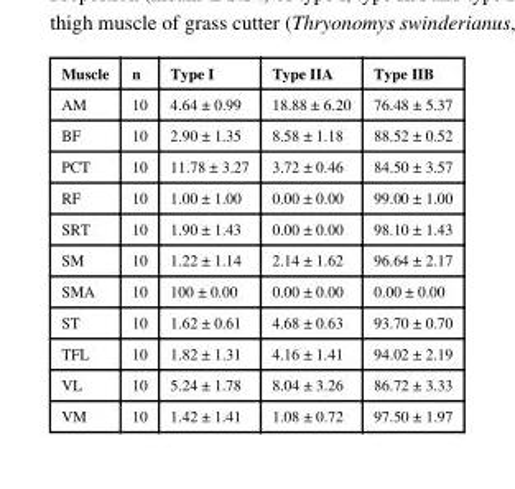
<table><thead><tr><td>Muscle</td><td>n</td><td>Type I</td><td>Type IIA</td><td>Type IIB</td></tr></thead><tbody><tr><td>AM</td><td>10</td><td>4.64 ± 0.99</td><td>18.88 ± 6.20</td><td>76.48 ± 5.37</td></tr><tr><td>BF</td><td>10</td><td>2.90 ± 1.35</td><td>8.58 ± 1.18</td><td>88.52 ± 0.52</td></tr><tr><td>PCT</td><td>10</td><td>11.78 ± 3.27</td><td>3.72 ± 0.46</td><td>84.50 ± 3.57</td></tr><tr><td>RF</td><td>10</td><td>1.00 ± 1.00</td><td>0.00 ± 0.00</td><td>99.00 ± 1.00</td></tr><tr><td>SRT</td><td>10</td><td>1.90 ± 1.43</td><td>0.00 ± 0.00</td><td>98.10 ± 1.43</td></tr><tr><td>SM</td><td>10</td><td>1.22 ± 1.14</td><td>2.14 ± 1.62</td><td>96.64 ± 2.17</td></tr><tr><td>SMA</td><td>10</td><td>100 ± 0.00</td><td>0.00 ± 0.00</td><td>0.00 ± 0.00</td></tr><tr><td>ST</td><td>10</td><td>1.62 ± 0.61</td><td>4.68 ± 0.63</td><td>93.70 ± 0.70</td></tr><tr><td>TFL</td><td>10</td><td>1.82 ± 1.31</td><td>4.16 ± 1.41</td><td>94.02 ± 2.19</td></tr><tr><td>VL</td><td>10</td><td>5.24 ± 1.78</td><td>8.04 ± 3.26</td><td>86.72 ± 3.33</td></tr><tr><td>VM</td><td>10</td><td>1.42 ± 1.41</td><td>1.08 ± 0.72</td><td>97.50 ± 1.97</td></tr></tbody></table>